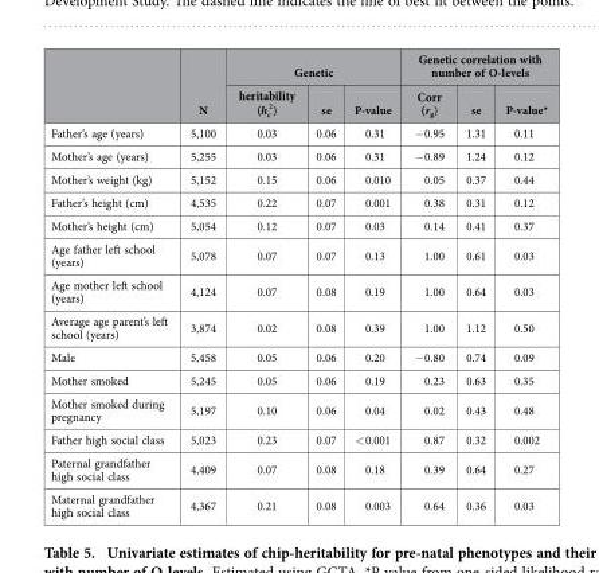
<table><thead><tr><td rowspan="2"></td><td rowspan="2">N</td><td colspan="3">Genetic</td><td colspan="3">Genetic correlation with number of O-levels</td></tr><tr><td>heritability (hc 2)</td><td>se</td><td>P-value</td><td>Corr (r<sub>g</sub>)</td><td>se</td><td>P-value*</td></tr></thead><tbody><tr><td>Father’s age (years)</td><td>5,100</td><td>0.03</td><td>0.06</td><td>0.31</td><td>− 0.95</td><td>1.31</td><td>0.11</td></tr><tr><td>Mother’s age (years)</td><td>5,255</td><td>0.03</td><td>0.06</td><td>0.31</td><td>− 0.89</td><td>1.24</td><td>0.12</td></tr><tr><td>Mother’s weight (kg)</td><td>5,152</td><td>0.15</td><td>0.06</td><td>0.010</td><td>0.05</td><td>0.37</td><td>0.44</td></tr><tr><td>Father’s height (cm)</td><td>4,535</td><td>0.22</td><td>0.07</td><td>0.001</td><td>0.38</td><td>0.31</td><td>0.12</td></tr><tr><td>Mother’s height (cm)</td><td>5,054</td><td>0.12</td><td>0.07</td><td>0.03</td><td>0.14</td><td>0.41</td><td>0.37</td></tr><tr><td>Age father left school (years)</td><td>5,078</td><td>0.07</td><td>0.07</td><td>0.13</td><td>1.00</td><td>0.61</td><td>0.03</td></tr><tr><td>Age mother left school (years)</td><td>4,124</td><td>0.07</td><td>0.08</td><td>0.19</td><td>1.00</td><td>0.64</td><td>0.03</td></tr><tr><td>Average age parent’s left school (years)</td><td>3,874</td><td>0.02</td><td>0.08</td><td>0.39</td><td>1.00</td><td>1.12</td><td>0.50</td></tr><tr><td>Male</td><td>5,458</td><td>0.05</td><td>0.06</td><td>0.20</td><td>− 0.80</td><td>0.74</td><td>0.09</td></tr><tr><td>Mother smoked</td><td>5,245</td><td>0.05</td><td>0.06</td><td>0.19</td><td>0.23</td><td>0.63</td><td>0.35</td></tr><tr><td>Mother smoked during pregnancy</td><td>5,197</td><td>0.10</td><td>0.06</td><td>0.04</td><td>0.02</td><td>0.43</td><td>0.48</td></tr><tr><td>Father high social class</td><td>5,023</td><td>0.23</td><td>0.07</td><td>&lt; 0.001</td><td>0.87</td><td>0.32</td><td>0.002</td></tr><tr><td>Paternal grandfather high social class</td><td>4,409</td><td>0.07</td><td>0.08</td><td>0.18</td><td>0.39</td><td>0.64</td><td>0.27</td></tr><tr><td>Maternal grandfather high social class</td><td>4,367</td><td>0.21</td><td>0.08</td><td>0.003</td><td>0.64</td><td>0.36</td><td>0.03</td></tr></tbody></table>